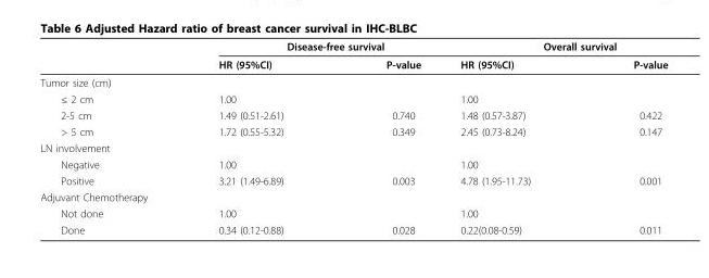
<table><thead><tr><td rowspan="2"></td><td colspan="2">Disease-free survival</td><td colspan="2">Overall survival</td></tr><tr><td>HR (95%CI)</td><td>P-value</td><td>HR (95%CI)</td><td>P-value</td></tr></thead><tbody><tr><td colspan="5">Tumor size (cm)</td></tr><tr><td>≤ 2 cm</td><td>1.00</td><td></td><td>1.00</td><td></td></tr><tr><td>2-5 cm</td><td>1.49 (0.51-2.61)</td><td>0.740</td><td>1.48 (0.57-3.87)</td><td>0.422</td></tr><tr><td>&gt; 5 cm</td><td>1.72 (0.55-5.32)</td><td>0.349</td><td>2.45 (0.73-8.24)</td><td>0.147</td></tr><tr><td colspan="5">LN involvement</td></tr><tr><td>Negative</td><td>1.00</td><td></td><td>1.00</td><td></td></tr><tr><td>Positive</td><td>3.21 (1.49-6.89)</td><td>0.003</td><td>4.78 (1.95-11.73)</td><td>0.001</td></tr><tr><td colspan="5">Adjuvant Chemotherapy</td></tr><tr><td>Not done</td><td>1.00</td><td></td><td>1.00</td><td></td></tr><tr><td>Done</td><td>0.34 (0.12-0.88)</td><td>0.028</td><td>0.22(0.08-0.59)</td><td>0.011</td></tr></tbody></table>